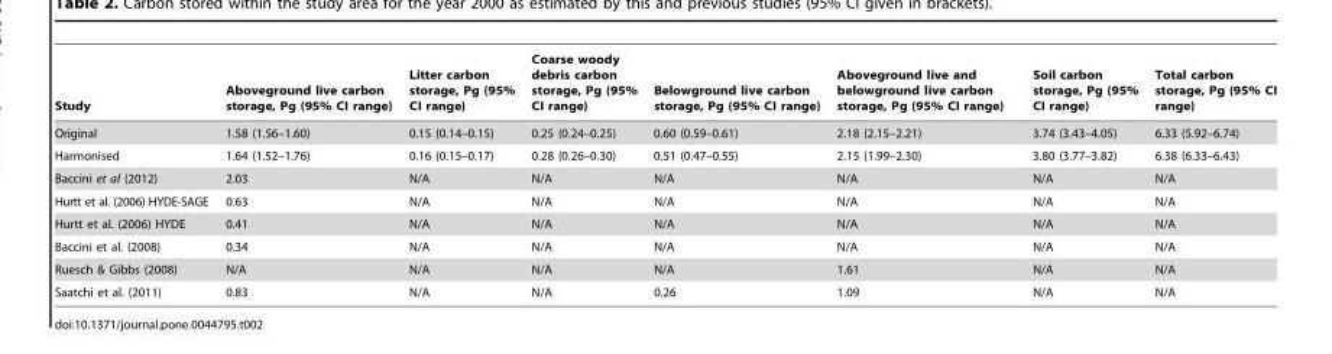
<table><thead><tr><td>Study</td><td>Aboveground live carbon storage, Pg (95% CI range)</td><td>Litter carbon storage, Pg (95% CI range)</td><td>Coarse woody debris carbon storage, Pg (95% CI range)</td><td>Belowground live carbon storage, Pg (95% CI range)</td><td>Aboveground live and belowground live carbon storage, Pg (95% CI range)</td><td>Soil carbon storage, Pg (95% CI range)</td><td>Total carbon storage, Pg (95% CI range)</td></tr></thead><tbody><tr><td>Original</td><td>1.58 (1.56–1.60)</td><td>0.15 (0.14–0.15)</td><td>0.25 (0.24–0.25)</td><td>0.60 (0.59–0.61)</td><td>2.18 (2.15–2.21)</td><td>3.74 (3.43–4.05)</td><td>6.33 (5.92–6.74)</td></tr><tr><td>Harmonised</td><td>1.64 (1.52–1.76)</td><td>0.16 (0.15–0.17)</td><td>0.28 (0.26–0.30)</td><td>0.51 (0.47–0.55)</td><td>2.15 (1.99–2.30)</td><td>3.80 (3.77–3.82)</td><td>6.38 (6.33–6.43)</td></tr><tr><td>Baccini et al (2012)</td><td>2.03</td><td>N/A</td><td>N/A</td><td>N/A</td><td>N/A</td><td>N/A</td><td>N/A</td></tr><tr><td>Hurtt et al. (2006) HYDE-SAGE</td><td>0.63</td><td>N/A</td><td>N/A</td><td>N/A</td><td>N/A</td><td>N/A</td><td>N/A</td></tr><tr><td>Hurtt et al. (2006) HYDE</td><td>0.41</td><td>N/A</td><td>N/A</td><td>N/A</td><td>N/A</td><td>N/A</td><td>N/A</td></tr><tr><td>Baccini et al. (2008)</td><td>0.34</td><td>N/A</td><td>N/A</td><td>N/A</td><td>N/A</td><td>N/A</td><td>N/A</td></tr><tr><td>Ruesch &amp; Gibbs (2008)</td><td>N/A</td><td>N/A</td><td>N/A</td><td>N/A</td><td>1.61</td><td>N/A</td><td>N/A</td></tr><tr><td>Saatchi et al. (2011)</td><td>0.83</td><td>N/A</td><td>N/A</td><td>0.26</td><td>1.09</td><td>N/A</td><td>N/A</td></tr></tbody></table>